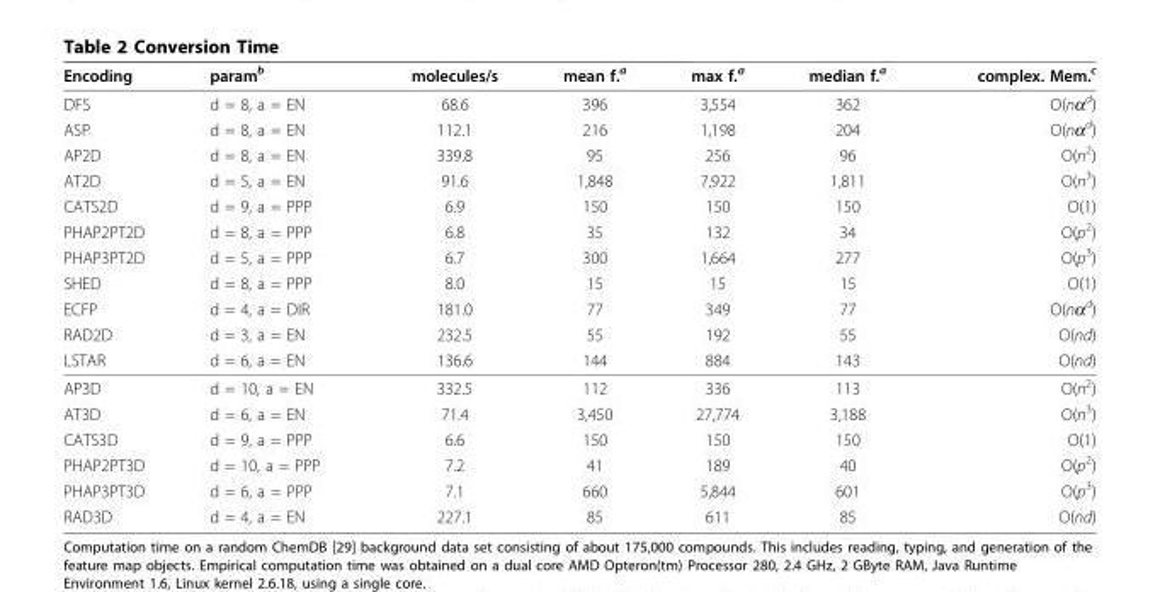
<table><thead><tr><td>Encoding</td><td>param<sup>b</sup></td><td>molecules/s</td><td>mean f.<sup>a</sup></td><td>max f.<sup>a</sup></td><td>median f.<sup>a</sup></td><td>complex. Mem.<sup>c</sup></td></tr></thead><tbody><tr><td>DFS</td><td>d = 8, a = EN</td><td>68.6</td><td>396</td><td>3,554</td><td>362</td><td>O(nα<sup>d</sup>)</td></tr><tr><td>ASP</td><td>d = 8, a = EN</td><td>112.1</td><td>216</td><td>1,198</td><td>204</td><td>O(nα<sup>d</sup>)</td></tr><tr><td>AP2D</td><td>d = 8, a = EN</td><td>339.8</td><td>95</td><td>256</td><td>96</td><td>O(n<sup>2</sup>)</td></tr><tr><td>AT2D</td><td>d = 5, a = EN</td><td>91.6</td><td>1,848</td><td>7,922</td><td>1,811</td><td>O(n<sup>3</sup>)</td></tr><tr><td>CATS2D</td><td>d = 9, a = PPP</td><td>6.9</td><td>150</td><td>150</td><td>150</td><td>O(1)</td></tr><tr><td>PHAP2PT2D</td><td>d = 8, a = PPP</td><td>6.8</td><td>35</td><td>132</td><td>34</td><td>O(p<sup>2</sup>)</td></tr><tr><td>PHAP3PT2D</td><td>d = 5, a = PPP</td><td>6.7</td><td>300</td><td>1,664</td><td>277</td><td>O(p<sup>3</sup>)</td></tr><tr><td>SHED</td><td>d = 8, a = PPP</td><td>8.0</td><td>15</td><td>15</td><td>15</td><td>O(1)</td></tr><tr><td>ECFP</td><td>d = 4, a = DIR</td><td>181.0</td><td>77</td><td>349</td><td>77</td><td>O(nα<sup>d</sup>)</td></tr><tr><td>RAD2D</td><td>d = 3, a = EN</td><td>232.5</td><td>55</td><td>192</td><td>55</td><td>O(nd)</td></tr><tr><td>LSTAR</td><td>d = 6, a = EN</td><td>136.6</td><td>144</td><td>884</td><td>143</td><td>O(nd)</td></tr><tr><td>AP3D</td><td>d = 10, a = EN</td><td>332.5</td><td>112</td><td>336</td><td>113</td><td>O(n<sup>2</sup>)</td></tr><tr><td>AT3D</td><td>d = 6, a = EN</td><td>71.4</td><td>3,450</td><td>27,774</td><td>3,188</td><td>O(n<sup>3</sup>)</td></tr><tr><td>CATS3D</td><td>d = 9, a = PPP</td><td>6.6</td><td>150</td><td>150</td><td>150</td><td>O(1)</td></tr><tr><td>PHAP2PT3D</td><td>d = 10, a = PPP</td><td>7.2</td><td>41</td><td>189</td><td>40</td><td>O(p<sup>2</sup>)</td></tr><tr><td>PHAP3PT3D</td><td>d = 6, a = PPP</td><td>7.1</td><td>660</td><td>5,844</td><td>601</td><td>O(p<sup>3</sup>)</td></tr><tr><td>RAD3D</td><td>d = 4, a = EN</td><td>227.1</td><td>85</td><td>611</td><td>85</td><td>O(nd)</td></tr></tbody></table>